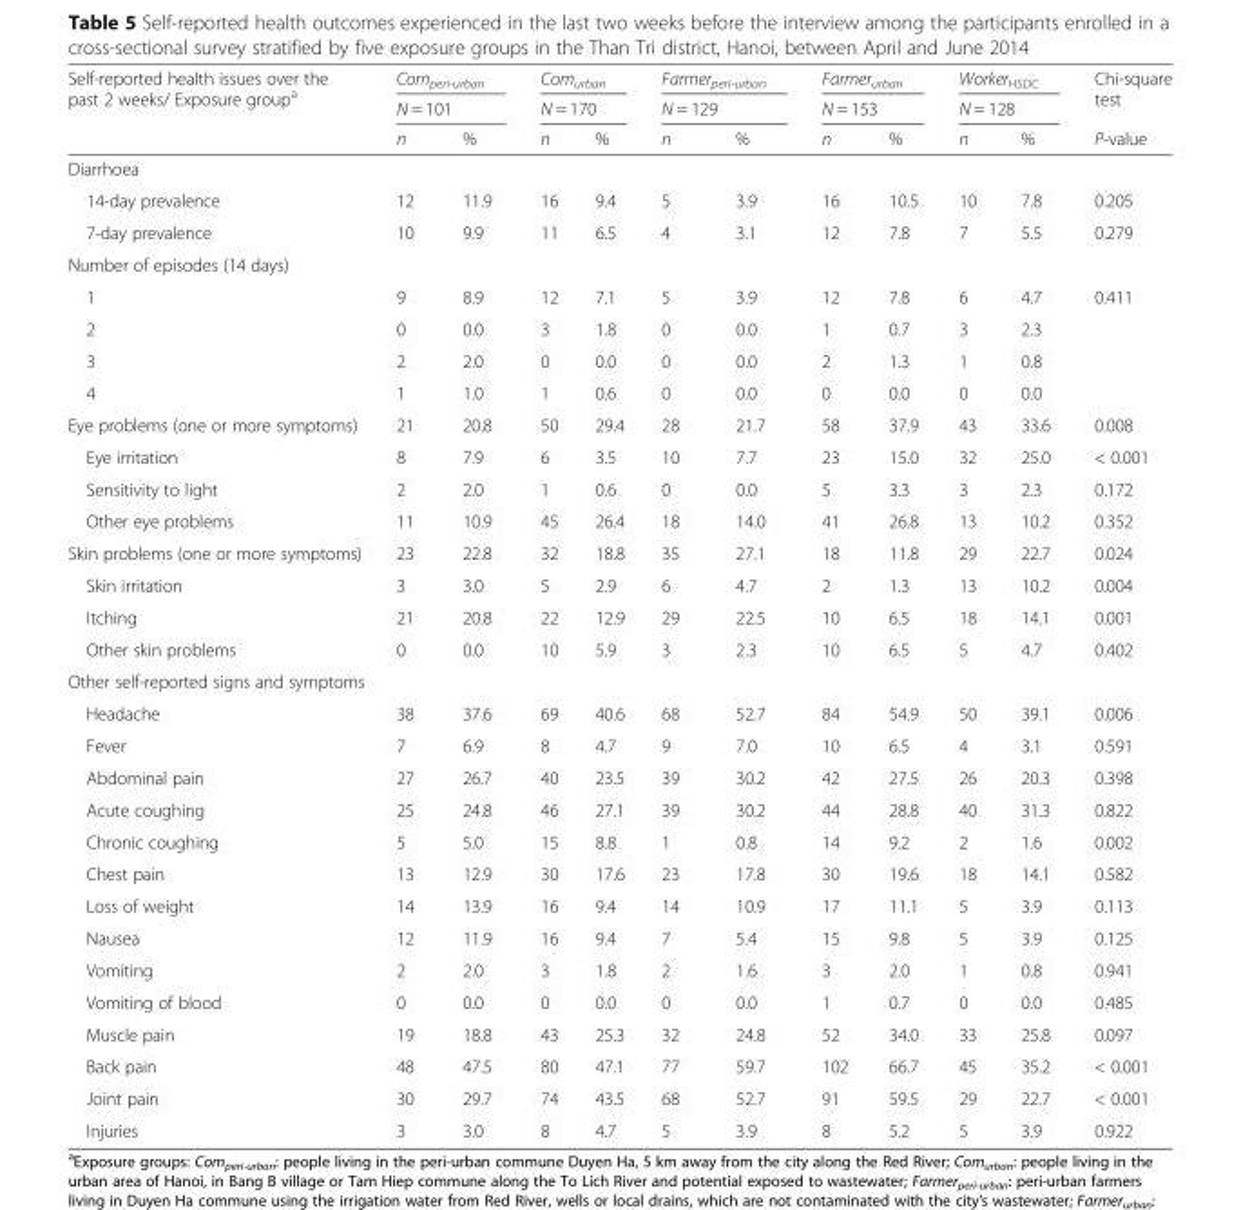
<table><thead><tr><td rowspan="3">Self-reported health issues over the past 2 weeks/ Exposure group<sup>a</sup></td><td rowspan="2" colspan="2">Com<sub>peri-urban</sub> N = 101</td><td rowspan="2" colspan="2">Com<sub>urban</sub> N = 170</td><td rowspan="2" colspan="2">Farmer<sub>peri-urban</sub> N = 129</td><td rowspan="2" colspan="2">Farmer<sub>urban</sub> N = 153</td><td rowspan="2" colspan="2">Worker<sub>HSDC</sub> N = 128</td><td rowspan="3">Chi-square test P-value</td></tr><tr></tr><tr><td>n</td><td>%</td><td>n</td><td>%</td><td>n</td><td>%</td><td>n</td><td>%</td><td>n</td><td>%</td></tr></thead><tbody><tr><td colspan="12">Diarrhoea</td></tr><tr><td>14-day prevalence</td><td>12</td><td>11.9</td><td>16</td><td>9.4</td><td>5</td><td>3.9</td><td>16</td><td>10.5</td><td>10</td><td>7.8</td><td>0.205</td></tr><tr><td>7-day prevalence</td><td>10</td><td>9.9</td><td>11</td><td>6.5</td><td>4</td><td>3.1</td><td>12</td><td>7.8</td><td>7</td><td>5.5</td><td>0.279</td></tr><tr><td colspan="12">Number of episodes (14 days)</td></tr><tr><td>1</td><td>9</td><td>8.9</td><td>12</td><td>7.1</td><td>5</td><td>3.9</td><td>12</td><td>7.8</td><td>6</td><td>4.7</td><td>0.411</td></tr><tr><td>2</td><td>0</td><td>0.0</td><td>3</td><td>1.8</td><td>0</td><td>0.0</td><td>1</td><td>0.7</td><td>3</td><td>2.3</td><td></td></tr><tr><td>3</td><td>2</td><td>2.0</td><td>0</td><td>0.0</td><td>0</td><td>0.0</td><td>2</td><td>1.3</td><td>1</td><td>0.8</td><td></td></tr><tr><td>4</td><td>1</td><td>1.0</td><td>1</td><td>0.6</td><td>0</td><td>0.0</td><td>0</td><td>0.0</td><td>0</td><td>0.0</td><td></td></tr><tr><td>Eye problems (one or more symptoms)</td><td>21</td><td>20.8</td><td>50</td><td>29.4</td><td>28</td><td>21.7</td><td>58</td><td>37.9</td><td>43</td><td>33.6</td><td>0.008</td></tr><tr><td>Eye irritation</td><td>8</td><td>7.9</td><td>6</td><td>3.5</td><td>10</td><td>7.7</td><td>23</td><td>15.0</td><td>32</td><td>25.0</td><td>&lt; 0.001</td></tr><tr><td>Sensitivity to light</td><td>2</td><td>2.0</td><td>1</td><td>0.6</td><td>0</td><td>0.0</td><td>5</td><td>3.3</td><td>3</td><td>2.3</td><td>0.172</td></tr><tr><td>Other eye problems</td><td>11</td><td>10.9</td><td>45</td><td>26.4</td><td>18</td><td>14.0</td><td>41</td><td>26.8</td><td>13</td><td>10.2</td><td>0.352</td></tr><tr><td>Skin problems (one or more symptoms)</td><td>23</td><td>22.8</td><td>32</td><td>18.8</td><td>35</td><td>27.1</td><td>18</td><td>11.8</td><td>29</td><td>22.7</td><td>0.024</td></tr><tr><td>Skin irritation</td><td>3</td><td>3.0</td><td>5</td><td>2.9</td><td>6</td><td>4.7</td><td>2</td><td>1.3</td><td>13</td><td>10.2</td><td>0.004</td></tr><tr><td>Itching</td><td>21</td><td>20.8</td><td>22</td><td>12.9</td><td>29</td><td>22.5</td><td>10</td><td>6.5</td><td>18</td><td>14.1</td><td>0.001</td></tr><tr><td>Other skin problems</td><td>0</td><td>0.0</td><td>10</td><td>5.9</td><td>3</td><td>2.3</td><td>10</td><td>6.5</td><td>5</td><td>4.7</td><td>0.402</td></tr><tr><td colspan="12">Other self-reported signs and symptoms</td></tr><tr><td>Headache</td><td>38</td><td>37.6</td><td>69</td><td>40.6</td><td>68</td><td>52.7</td><td>84</td><td>54.9</td><td>50</td><td>39.1</td><td>0.006</td></tr><tr><td>Fever</td><td>7</td><td>6.9</td><td>8</td><td>4.7</td><td>9</td><td>7.0</td><td>10</td><td>6.5</td><td>4</td><td>3.1</td><td>0.591</td></tr><tr><td>Abdominal pain</td><td>27</td><td>26.7</td><td>40</td><td>23.5</td><td>39</td><td>30.2</td><td>42</td><td>27.5</td><td>26</td><td>20.3</td><td>0.398</td></tr><tr><td>Acute coughing</td><td>25</td><td>24.8</td><td>46</td><td>27.1</td><td>39</td><td>30.2</td><td>44</td><td>28.8</td><td>40</td><td>31.3</td><td>0.822</td></tr><tr><td>Chronic coughing</td><td>5</td><td>5.0</td><td>15</td><td>8.8</td><td>1</td><td>0.8</td><td>14</td><td>9.2</td><td>2</td><td>1.6</td><td>0.002</td></tr><tr><td>Chest pain</td><td>13</td><td>12.9</td><td>30</td><td>17.6</td><td>23</td><td>17.8</td><td>30</td><td>19.6</td><td>18</td><td>14.1</td><td>0.582</td></tr><tr><td>Loss of weight</td><td>14</td><td>13.9</td><td>16</td><td>9.4</td><td>14</td><td>10.9</td><td>17</td><td>11.1</td><td>5</td><td>3.9</td><td>0.113</td></tr><tr><td>Nausea</td><td>12</td><td>11.9</td><td>16</td><td>9.4</td><td>7</td><td>5.4</td><td>15</td><td>9.8</td><td>5</td><td>3.9</td><td>0.125</td></tr><tr><td>Vomiting</td><td>2</td><td>2.0</td><td>3</td><td>1.8</td><td>2</td><td>1.6</td><td>3</td><td>2.0</td><td>1</td><td>0.8</td><td>0.941</td></tr><tr><td>Vomiting of blood</td><td>0</td><td>0.0</td><td>0</td><td>0.0</td><td>0</td><td>0.0</td><td>1</td><td>0.7</td><td>0</td><td>0.0</td><td>0.485</td></tr><tr><td>Muscle pain</td><td>19</td><td>18.8</td><td>43</td><td>25.3</td><td>32</td><td>24.8</td><td>52</td><td>34.0</td><td>33</td><td>25.8</td><td>0.097</td></tr><tr><td>Back pain</td><td>48</td><td>47.5</td><td>80</td><td>47.1</td><td>77</td><td>59.7</td><td>102</td><td>66.7</td><td>45</td><td>35.2</td><td>&lt; 0.001</td></tr><tr><td>Joint pain</td><td>30</td><td>29.7</td><td>74</td><td>43.5</td><td>68</td><td>52.7</td><td>91</td><td>59.5</td><td>29</td><td>22.7</td><td>&lt; 0.001</td></tr><tr><td>Injuries</td><td>3</td><td>3.0</td><td>8</td><td>4.7</td><td>5</td><td>3.9</td><td>8</td><td>5.2</td><td>5</td><td>3.9</td><td>0.922</td></tr></tbody></table>